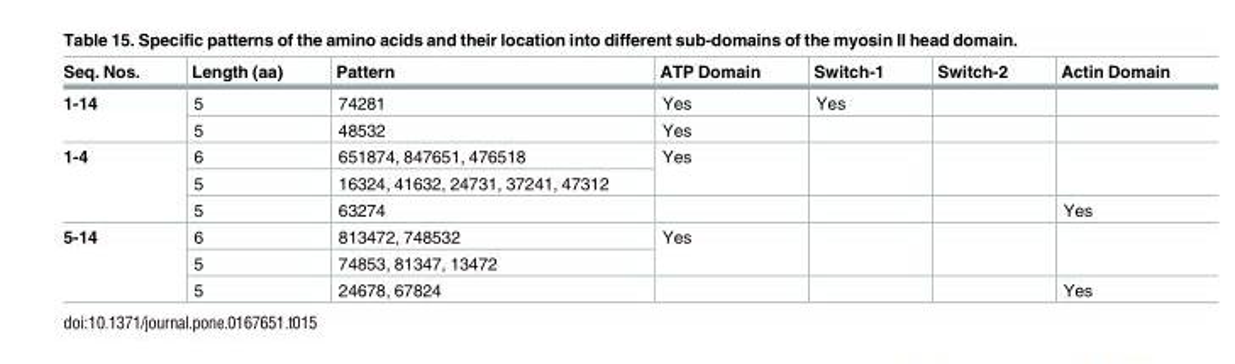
<table><thead><tr><td>Seq. Nos.</td><td>Length (aa)</td><td>Pattern</td><td>ATP Domain</td><td>Switch-1</td><td>Switch-2</td><td>Actin Domain</td></tr></thead><tbody><tr><td rowspan="2">1-14</td><td>5</td><td>74281</td><td>Yes</td><td>Yes</td><td></td><td></td></tr><tr><td>5</td><td>48532</td><td>Yes</td><td></td><td></td><td></td></tr><tr><td rowspan="3">1-4</td><td>6</td><td>651874, 847651, 476518</td><td rowspan="2">Yes</td><td rowspan="2"></td><td rowspan="2"></td><td rowspan="2"></td></tr><tr><td>5</td><td>16324, 41632, 24731, 37241, 47312</td></tr><tr><td>5</td><td>63274</td><td></td><td></td><td></td><td>Yes</td></tr><tr><td rowspan="3">5-14</td><td>6</td><td>813472, 748532</td><td rowspan="2">Yes</td><td rowspan="2"></td><td rowspan="2"></td><td rowspan="2"></td></tr><tr><td>5</td><td>74853, 81347, 13472</td></tr><tr><td>5</td><td>24678, 67824</td><td></td><td></td><td></td><td>Yes</td></tr></tbody></table>